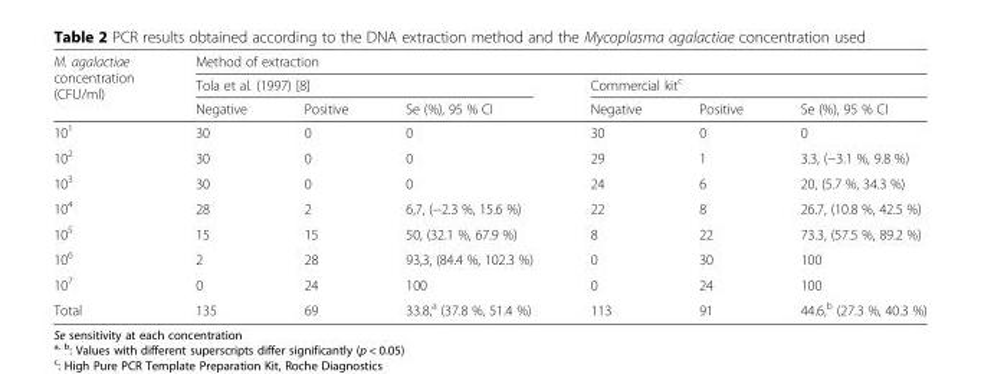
<table><thead><tr><td rowspan="3">M. agalactiae concentration (CFU/ml)</td><td colspan="6">Method of extraction</td></tr><tr><td colspan="3">Tola et al. (1997) [8]</td><td colspan="3">Commercial kit<sup>c</sup></td></tr><tr><td>Negative</td><td>Positive</td><td>Se (%), 95 % CI</td><td>Negative</td><td>Positive</td><td>Se (%), 95 % CI</td></tr></thead><tbody><tr><td>10<sup>1</sup></td><td>30</td><td>0</td><td>0</td><td>30</td><td>0</td><td>0</td></tr><tr><td>10<sup>2</sup></td><td>30</td><td>0</td><td>0</td><td>29</td><td>1</td><td>3.3, (−3.1 %, 9.8 %)</td></tr><tr><td>10<sup>3</sup></td><td>30</td><td>0</td><td>0</td><td>24</td><td>6</td><td>20, (5.7 %, 34.3 %)</td></tr><tr><td>10<sup>4</sup></td><td>28</td><td>2</td><td>6,7, (−2.3 %, 15.6 %)</td><td>22</td><td>8</td><td>26.7, (10.8 %, 42.5 %)</td></tr><tr><td>10<sup>5</sup></td><td>15</td><td>15</td><td>50, (32.1 %, 67.9 %)</td><td>8</td><td>22</td><td>73.3, (57.5 %, 89.2 %)</td></tr><tr><td>10<sup>6</sup></td><td>2</td><td>28</td><td>93,3, (84.4 %, 102.3 %)</td><td>0</td><td>30</td><td>100</td></tr><tr><td>10<sup>7</sup></td><td>0</td><td>24</td><td>100</td><td>0</td><td>24</td><td>100</td></tr><tr><td>Total</td><td>135</td><td>69</td><td>33.8,<sup>a</sup> (37.8 %, 51.4 %)</td><td>113</td><td>91</td><td>44.6,<sup>b</sup> (27.3 %, 40.3 %)</td></tr></tbody></table>